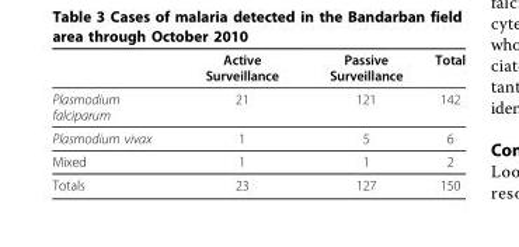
<table><thead><tr><td></td><td>Active Surveillance</td><td>Passive Surveillance</td><td>Total</td></tr></thead><tbody><tr><td>Plasmodium falciparum</td><td>21</td><td>121</td><td>142</td></tr><tr><td>Plasmodium vivax</td><td>1</td><td>5</td><td>6</td></tr><tr><td>Mixed</td><td>1</td><td>1</td><td>2</td></tr><tr><td>Totals</td><td>23</td><td>127</td><td>150</td></tr></tbody></table>